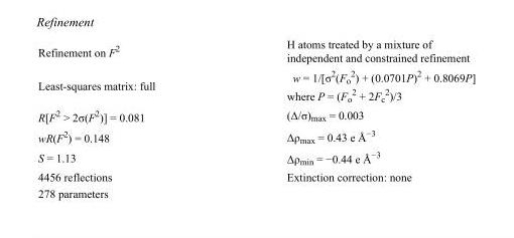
<table><tbody><tr><td>Refinement on F<sup>2</sup></td><td>H atoms treated by a mixture of independent and constrained refinement</td></tr><tr><td>Least-squares matrix: full</td><td>w = 1/[σ<sup>2</sup>(F<sub>o</sub> <sup>2</sup>) + (0.0701P)<sup>2</sup> + 0.8069P] where P = (F<sub>o</sub> <sup>2</sup> + 2F<sub>c</sub> <sup>2</sup>)/3</td></tr><tr><td>R[F<sup>2</sup> &gt; 2σ(F<sup>2</sup>)] = 0.081</td><td>(Δ/σ)<sub>max</sub> = 0.003</td></tr><tr><td>wR(F<sup>2</sup>) = 0.148</td><td>Δρ<sub>max</sub> = 0.43 e Å<sup>−3</sup></td></tr><tr><td>S = 1.13</td><td>Δρ<sub>min</sub> = −0.44 e Å<sup>−3</sup></td></tr><tr><td>4456 reflections</td><td>Extinction correction: none</td></tr><tr><td>278 parameters</td><td></td></tr></tbody></table>